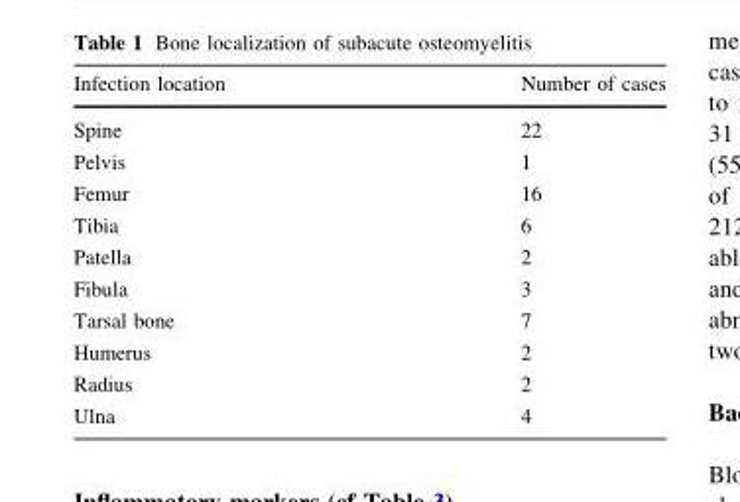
<table><thead><tr><td>Infection location</td><td>Number of cases</td></tr></thead><tbody><tr><td>Spine</td><td>22</td></tr><tr><td>Pelvis</td><td>1</td></tr><tr><td>Femur</td><td>16</td></tr><tr><td>Tibia</td><td>6</td></tr><tr><td>Patella</td><td>2</td></tr><tr><td>Fibula</td><td>3</td></tr><tr><td>Tarsal bone</td><td>7</td></tr><tr><td>Humerus</td><td>2</td></tr><tr><td>Radius</td><td>2</td></tr><tr><td>Ulna</td><td>4</td></tr></tbody></table>